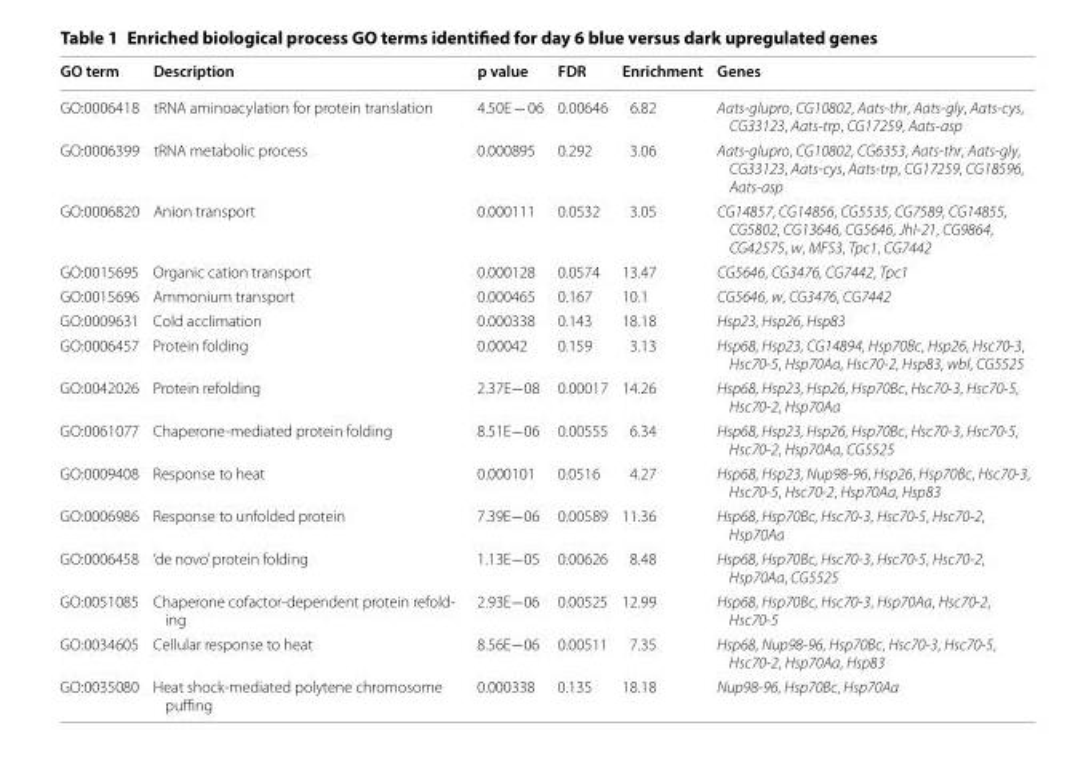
<table><thead><tr><td>GO term</td><td>Description</td><td>p value</td><td>FDR</td><td>Enrichment</td><td>Genes</td></tr></thead><tbody><tr><td>GO:0006418</td><td>tRNA aminoacylation for protein translation</td><td>4.50E − 06</td><td>0.00646</td><td>6.82</td><td>Aats‑glupro, CG10802, Aats‑thr, Aats‑gly, Aats‑cys, CG33123, Aats‑trp, CG17259, Aats‑asp</td></tr><tr><td>GO:0006399</td><td>tRNA metabolic process</td><td>0.000895</td><td>0.292</td><td>3.06</td><td>Aats‑glupro, CG10802, CG6353, Aats‑thr, Aats‑gly, CG33123, Aats‑cys, Aats‑trp, CG17259, CG18596, Aats‑asp</td></tr><tr><td>GO:0006820</td><td>Anion transport</td><td>0.000111</td><td>0.0532</td><td>3.05</td><td>CG14857, CG14856, CG5535, CG7589, CG14855, CG5802, CG13646, CG5646, JhI‑21, CG9864, CG42575, w, MFS3, Tpc1, CG7442</td></tr><tr><td>GO:0015695</td><td>Organic cation transport</td><td>0.000128</td><td>0.0574</td><td>13.47</td><td>CG5646, CG3476, CG7442, Tpc1</td></tr><tr><td>GO:0015696</td><td>Ammonium transport</td><td>0.000465</td><td>0.167</td><td>10.1</td><td>CG5646, w, CG3476, CG7442</td></tr><tr><td>GO:0009631</td><td>Cold acclimation</td><td>0.000338</td><td>0.143</td><td>18.18</td><td>Hsp23, Hsp26, Hsp83</td></tr><tr><td>GO:0006457</td><td>Protein folding</td><td>0.00042</td><td>0.159</td><td>3.13</td><td>Hsp68, Hsp23, CG14894, Hsp70Bc, Hsp26, Hsc70‑3, Hsc70‑5, Hsp70Aa, Hsc70‑2, Hsp83, wbl, CG5525</td></tr><tr><td>GO:0042026</td><td>Protein refolding</td><td>2.37E−08</td><td>0.00017</td><td>14.26</td><td>Hsp68, Hsp23, Hsp26, Hsp70Bc, Hsc70‑3, Hsc70‑5, Hsc70‑2, Hsp70Aa</td></tr><tr><td>GO:0061077</td><td>Chaperone‑mediated protein folding</td><td>8.51E−06</td><td>0.00555</td><td>6.34</td><td>Hsp68, Hsp23, Hsp26, Hsp70Bc, Hsc70‑3, Hsc70‑5, Hsc70‑2, Hsp70Aa, CG5525</td></tr><tr><td>GO:0009408</td><td>Response to heat</td><td>0.000101</td><td>0.0516</td><td>4.27</td><td>Hsp68, Hsp23, Nup98‑96, Hsp26, Hsp70Bc, Hsc70‑3, Hsc70‑5, Hsc70‑2, Hsp70Aa, Hsp83</td></tr><tr><td>GO:0006986</td><td>Response to unfolded protein</td><td>7.39E−06</td><td>0.00589</td><td>11.36</td><td>Hsp68, Hsp70Bc, Hsc70‑3, Hsc70‑5, Hsc70‑2, Hsp70Aa</td></tr><tr><td>GO:0006458</td><td>‘de novo’ protein folding</td><td>1.13E−05</td><td>0.00626</td><td>8.48</td><td>Hsp68, Hsp70Bc, Hsc70‑3, Hsc70‑5, Hsc70‑2, Hsp70Aa, CG5525</td></tr><tr><td>GO:0051085</td><td>Chaperone cofactor‑dependent protein refold‑ ing</td><td>2.93E−06</td><td>0.00525</td><td>12.99</td><td>Hsp68, Hsp70Bc, Hsc70‑3, Hsp70Aa, Hsc70‑2, Hsc70‑5</td></tr><tr><td>GO:0034605</td><td>Cellular response to heat</td><td>8.56E−06</td><td>0.00511</td><td>7.35</td><td>Hsp68, Nup98‑96, Hsp70Bc, Hsc70‑3, Hsc70‑5, Hsc70‑2, Hsp70Aa, Hsp83</td></tr><tr><td>GO:0035080</td><td>Heat shock‑mediated polytene chromosome puffing</td><td>0.000338</td><td>0.135</td><td>18.18</td><td>Nup98‑96, Hsp70Bc, Hsp70Aa</td></tr></tbody></table>